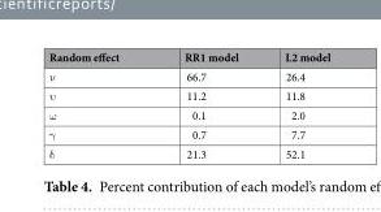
<table><thead><tr><td>Random effect</td><td>RR1 model</td><td>L2 model</td></tr></thead><tbody><tr><td>ν</td><td>66.7</td><td>26.4</td></tr><tr><td>υ</td><td>11.2</td><td>11.8</td></tr><tr><td>ω</td><td>0.1</td><td>2.0</td></tr><tr><td>γ</td><td>0.7</td><td>7.7</td></tr><tr><td>δ</td><td>21.3</td><td>52.1</td></tr></tbody></table>